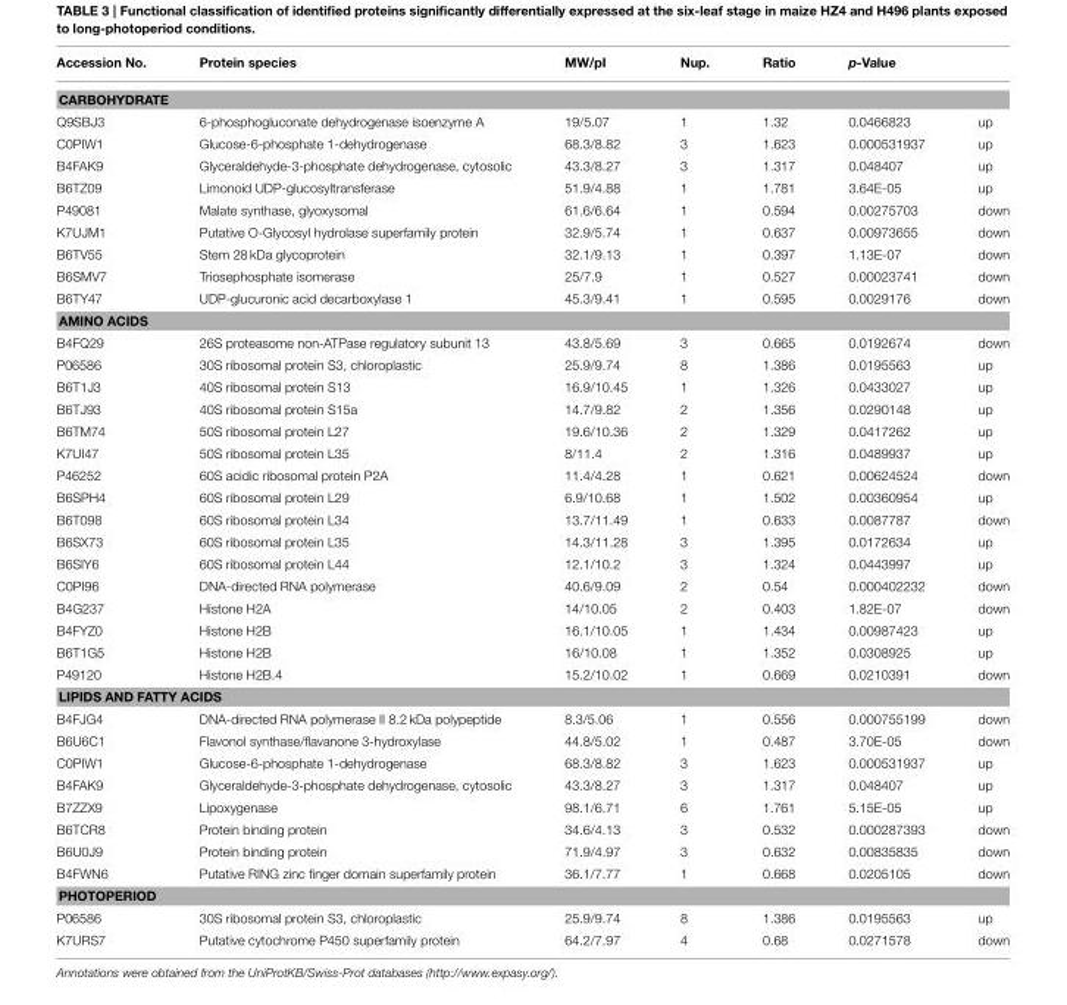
<table><thead><tr><td>Accession No.</td><td>Protein species</td><td>MW/pI</td><td>Nup.</td><td>Ratio</td><td>p-Value</td><td></td></tr></thead><tbody><tr><td colspan="7">CARBOHYDRATE</td></tr><tr><td>Q9SBJ3</td><td>6-phosphogluconate dehydrogenase isoenzyme A</td><td>19/5.07</td><td>1</td><td>1.32</td><td>0.0466823</td><td>up</td></tr><tr><td>C0PIW1</td><td>Glucose-6-phosphate 1-dehydrogenase</td><td>68.3/8.82</td><td>3</td><td>1.623</td><td>0.000531937</td><td>up</td></tr><tr><td>B4FAK9</td><td>Glyceraldehyde-3-phosphate dehydrogenase, cytosolic</td><td>43.3/8.27</td><td>3</td><td>1.317</td><td>0.048407</td><td>up</td></tr><tr><td>B6TZ09</td><td>Limonoid UDP-glucosyltransferase</td><td>51.9/4.88</td><td>1</td><td>1.781</td><td>3.64E-05</td><td>up</td></tr><tr><td>P49081</td><td>Malate synthase, glyoxysomal</td><td>61.6/6.64</td><td>1</td><td>0.594</td><td>0.00275703</td><td>down</td></tr><tr><td>K7UJM1</td><td>Putative O-Glycosyl hydrolase superfamily protein</td><td>32.9/5.74</td><td>1</td><td>0.637</td><td>0.00973655</td><td>down</td></tr><tr><td>B6TV55</td><td>Stem 28 kDa glycoprotein</td><td>32.1/9.13</td><td>1</td><td>0.397</td><td>1.13E-07</td><td>down</td></tr><tr><td>B6SMV7</td><td>Triosephosphate isomerase</td><td>25/7.9</td><td>1</td><td>0.527</td><td>0.00023741</td><td>down</td></tr><tr><td>B6TY47</td><td>UDP-glucuronic acid decarboxylase 1</td><td>45.3/9.41</td><td>1</td><td>0.595</td><td>0.0029176</td><td>down</td></tr><tr><td colspan="7">AMINO ACIDS</td></tr><tr><td>B4FQ29</td><td>26S proteasome non-ATPase regulatory subunit 13</td><td>43.8/5.69</td><td>3</td><td>0.665</td><td>0.0192674</td><td>down</td></tr><tr><td>P06586</td><td>30S ribosomal protein S3, chloroplastic</td><td>25.9/9.74</td><td>8</td><td>1.386</td><td>0.0195563</td><td>up</td></tr><tr><td>B6T1J3</td><td>40S ribosomal protein S13</td><td>16.9/10.45</td><td>1</td><td>1.326</td><td>0.0433027</td><td>up</td></tr><tr><td>B6TJ93</td><td>40S ribosomal protein S15a</td><td>14.7/9.82</td><td>2</td><td>1.356</td><td>0.0290148</td><td>up</td></tr><tr><td>B6TM74</td><td>50S ribosomal protein L27</td><td>19.6/10.36</td><td>2</td><td>1.329</td><td>0.0417262</td><td>up</td></tr><tr><td>K7UI47</td><td>50S ribosomal protein L35</td><td>8/11.4</td><td>2</td><td>1.316</td><td>0.0489937</td><td>up</td></tr><tr><td>P46252</td><td>60S acidic ribosomal protein P2A</td><td>11.4/4.28</td><td>1</td><td>0.621</td><td>0.00624524</td><td>down</td></tr><tr><td>B6SPH4</td><td>60S ribosomal protein L29</td><td>6.9/10.68</td><td>1</td><td>1.502</td><td>0.00360954</td><td>up</td></tr><tr><td>B6T098</td><td>60S ribosomal protein L34</td><td>13.7/11.49</td><td>1</td><td>0.633</td><td>0.0087787</td><td>down</td></tr><tr><td>B6SX73</td><td>60S ribosomal protein L35</td><td>14.3/11.28</td><td>3</td><td>1.395</td><td>0.0172634</td><td>up</td></tr><tr><td>B6SIY6</td><td>60S ribosomal protein L44</td><td>12.1/10.2</td><td>3</td><td>1.324</td><td>0.0443997</td><td>up</td></tr><tr><td>C0PI96</td><td>DNA-directed RNA polymerase</td><td>40.6/9.09</td><td>2</td><td>0.54</td><td>0.000402232</td><td>down</td></tr><tr><td>B4G237</td><td>Histone H2A</td><td>14/10.05</td><td>2</td><td>0.403</td><td>1.82E-07</td><td>down</td></tr><tr><td>B4FYZ0</td><td>Histone H2B</td><td>16.1/10.05</td><td>1</td><td>1.434</td><td>0.00987423</td><td>up</td></tr><tr><td>B6T1G5</td><td>Histone H2B</td><td>16/10.08</td><td>1</td><td>1.352</td><td>0.0308925</td><td>up</td></tr><tr><td>P49120</td><td>Histone H2B.4</td><td>15.2/10.02</td><td>1</td><td>0.669</td><td>0.0210391</td><td>down</td></tr><tr><td colspan="7">LIPIDS AND FATTY ACIDS</td></tr><tr><td>B4FJG4</td><td>DNA-directed RNA polymerase II 8.2 kDa polypeptide</td><td>8.3/5.06</td><td>1</td><td>0.556</td><td>0.000755199</td><td>down</td></tr><tr><td>B6U6C1</td><td>Flavonol synthase/flavanone 3-hydroxylase</td><td>44.8/5.02</td><td>1</td><td>0.487</td><td>3.70E-05</td><td>down</td></tr><tr><td>C0PIW1</td><td>Glucose-6-phosphate 1-dehydrogenase</td><td>68.3/8.82</td><td>3</td><td>1.623</td><td>0.000531937</td><td>up</td></tr><tr><td>B4FAK9</td><td>Glyceraldehyde-3-phosphate dehydrogenase, cytosolic</td><td>43.3/8.27</td><td>3</td><td>1.317</td><td>0.048407</td><td>up</td></tr><tr><td>B7ZZX9</td><td>Lipoxygenase</td><td>98.1/6.71</td><td>6</td><td>1.761</td><td>5.15E-05</td><td>up</td></tr><tr><td>B6TCR8</td><td>Protein binding protein</td><td>34.6/4.13</td><td>3</td><td>0.532</td><td>0.000287393</td><td>down</td></tr><tr><td>B6U0J9</td><td>Protein binding protein</td><td>71.9/4.97</td><td>3</td><td>0.632</td><td>0.00835835</td><td>down</td></tr><tr><td>B4FWN6</td><td>Putative RING zinc finger domain superfamily protein</td><td>36.1/7.77</td><td>1</td><td>0.668</td><td>0.0205105</td><td>down</td></tr><tr><td colspan="7">PHOTOPERIOD</td></tr><tr><td>P06586</td><td>30S ribosomal protein S3, chloroplastic</td><td>25.9/9.74</td><td>8</td><td>1.386</td><td>0.0195563</td><td>up</td></tr><tr><td>K7URS7</td><td>Putative cytochrome P450 superfamily protein</td><td>64.2/7.97</td><td>4</td><td>0.68</td><td>0.0271578</td><td>down</td></tr></tbody></table>